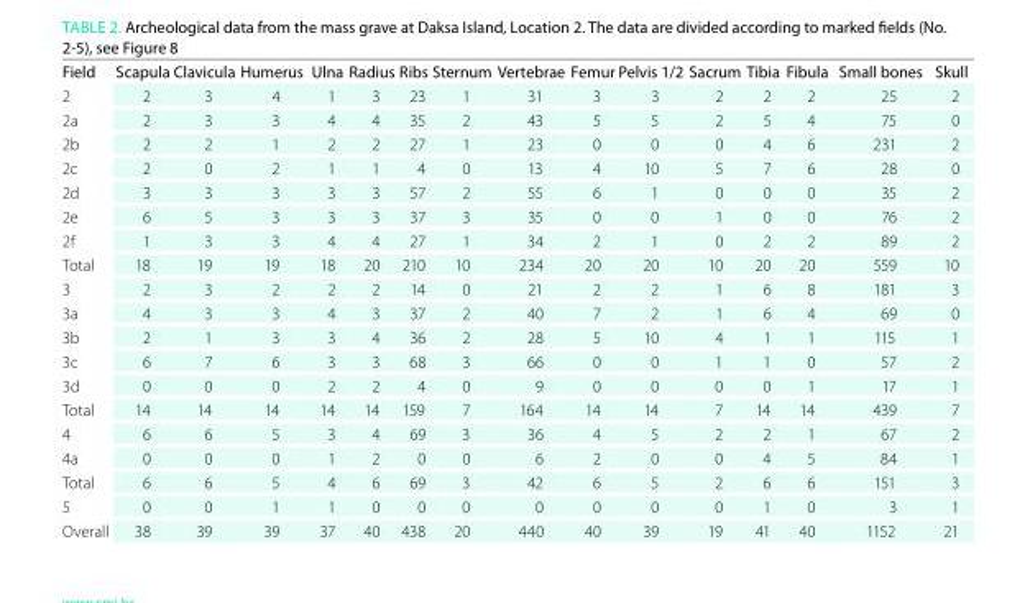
<table><thead><tr><td>Field</td><td>Scapula</td><td>Clavicula</td><td>humerus</td><td>Ulna</td><td>radius</td><td>ribs</td><td>Sternum</td><td>Vertebrae</td><td>Femur</td><td>Pelvis 1/2</td><td>Sacrum</td><td>tibia</td><td>Fibula</td><td>Small bones</td><td>Skull</td></tr></thead><tbody><tr><td>2</td><td>2</td><td>3</td><td>4</td><td>1</td><td>3</td><td>23</td><td>1</td><td>31</td><td>3</td><td>3</td><td>2</td><td>2</td><td>2</td><td>25</td><td>2</td></tr><tr><td>2a</td><td>2</td><td>3</td><td>3</td><td>4</td><td>4</td><td>35</td><td>2</td><td>43</td><td>5</td><td>5</td><td>2</td><td>5</td><td>4</td><td>75</td><td>0</td></tr><tr><td>2b</td><td>2</td><td>2</td><td>1</td><td>2</td><td>2</td><td>27</td><td>1</td><td>23</td><td>0</td><td>0</td><td>0</td><td>4</td><td>6</td><td>231</td><td>2</td></tr><tr><td>2c</td><td>2</td><td>0</td><td>2</td><td>1</td><td>1</td><td>4</td><td>0</td><td>13</td><td>4</td><td>10</td><td>5</td><td>7</td><td>6</td><td>28</td><td>0</td></tr><tr><td>2d</td><td>3</td><td>3</td><td>3</td><td>3</td><td>3</td><td>57</td><td>2</td><td>55</td><td>6</td><td>1</td><td>0</td><td>0</td><td>0</td><td>35</td><td>2</td></tr><tr><td>2e</td><td>6</td><td>5</td><td>3</td><td>3</td><td>3</td><td>37</td><td>3</td><td>35</td><td>0</td><td>0</td><td>1</td><td>0</td><td>0</td><td>76</td><td>2</td></tr><tr><td>2f</td><td>1</td><td>3</td><td>3</td><td>4</td><td>4</td><td>27</td><td>1</td><td>34</td><td>2</td><td>1</td><td>0</td><td>2</td><td>2</td><td>89</td><td>2</td></tr><tr><td>Total</td><td>18</td><td>19</td><td>19</td><td>18</td><td>20</td><td>210</td><td>10</td><td>234</td><td>20</td><td>20</td><td>10</td><td>20</td><td>20</td><td>559</td><td>10</td></tr><tr><td>3</td><td>2</td><td>3</td><td>2</td><td>2</td><td>2</td><td>14</td><td>0</td><td>21</td><td>2</td><td>2</td><td>1</td><td>6</td><td>8</td><td>181</td><td>3</td></tr><tr><td>3a</td><td>4</td><td>3</td><td>3</td><td>4</td><td>3</td><td>37</td><td>2</td><td>40</td><td>7</td><td>2</td><td>1</td><td>6</td><td>4</td><td>69</td><td>0</td></tr><tr><td>3b</td><td>2</td><td>1</td><td>3</td><td>3</td><td>4</td><td>36</td><td>2</td><td>28</td><td>5</td><td>10</td><td>4</td><td>1</td><td>1</td><td>115</td><td>1</td></tr><tr><td>3c</td><td>6</td><td>7</td><td>6</td><td>3</td><td>3</td><td>68</td><td>3</td><td>66</td><td>0</td><td>0</td><td>1</td><td>1</td><td>0</td><td>57</td><td>2</td></tr><tr><td>3d</td><td>0</td><td>0</td><td>0</td><td>2</td><td>2</td><td>4</td><td>0</td><td>9</td><td>0</td><td>0</td><td>0</td><td>0</td><td>1</td><td>17</td><td>1</td></tr><tr><td>Total</td><td>14</td><td>14</td><td>14</td><td>14</td><td>14</td><td>159</td><td>7</td><td>164</td><td>14</td><td>14</td><td>7</td><td>14</td><td>14</td><td>439</td><td>7</td></tr><tr><td>4</td><td>6</td><td>6</td><td>5</td><td>3</td><td>4</td><td>69</td><td>3</td><td>36</td><td>4</td><td>5</td><td>2</td><td>2</td><td>1</td><td>67</td><td>2</td></tr><tr><td>4a</td><td>0</td><td>0</td><td>0</td><td>1</td><td>2</td><td>0</td><td>0</td><td>6</td><td>2</td><td>0</td><td>0</td><td>4</td><td>5</td><td>84</td><td>1</td></tr><tr><td>Total</td><td>6</td><td>6</td><td>5</td><td>4</td><td>6</td><td>69</td><td>3</td><td>42</td><td>6</td><td>5</td><td>2</td><td>6</td><td>6</td><td>151</td><td>3</td></tr><tr><td>5</td><td>0</td><td>0</td><td>1</td><td>1</td><td>0</td><td>0</td><td>0</td><td>0</td><td>0</td><td>0</td><td>0</td><td>1</td><td>0</td><td>3</td><td>1</td></tr><tr><td>Overall</td><td>38</td><td>39</td><td>39</td><td>37</td><td>40</td><td>438</td><td>20</td><td>440</td><td>40</td><td>39</td><td>19</td><td>41</td><td>40</td><td>1152</td><td>21</td></tr></tbody></table>